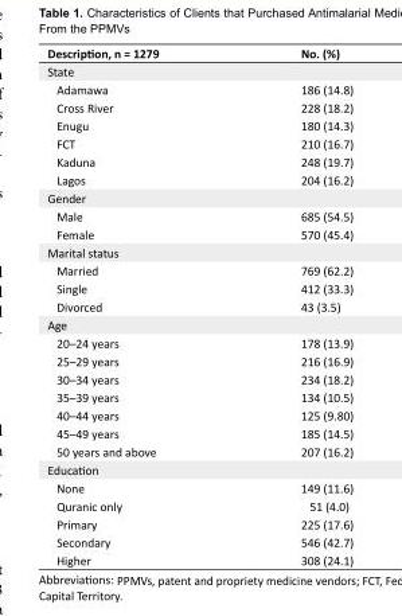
<table><tbody><tr><td>Description, n = 1279</td><td>No. (%)</td></tr><tr><td colspan="2">State</td></tr><tr><td>Adamawa</td><td>186 (14.8)</td></tr><tr><td>Cross River</td><td>228 (18.2)</td></tr><tr><td>Enugu</td><td>180 (14.3)</td></tr><tr><td>FCT</td><td>210 (16.7)</td></tr><tr><td>Kaduna</td><td>248 (19.7)</td></tr><tr><td>Lagos</td><td>204 (16.2)</td></tr><tr><td colspan="2">Gender</td></tr><tr><td>Male</td><td>685 (54.5)</td></tr><tr><td>Female</td><td>570 (45.4)</td></tr><tr><td colspan="2">Marital status</td></tr><tr><td>Married</td><td>769 (62.2)</td></tr><tr><td>Single</td><td>412 (33.3)</td></tr><tr><td>Divorced</td><td>43 (3.5)</td></tr><tr><td colspan="2">Age</td></tr><tr><td>20–24 years</td><td>178 (13.9)</td></tr><tr><td>25–29 years</td><td>216 (16.9)</td></tr><tr><td>30–34 years</td><td>234 (18.2)</td></tr><tr><td>35–39 years</td><td>134 (10.5)</td></tr><tr><td>40–44 years</td><td>125 (9.80)</td></tr><tr><td>45–49 years</td><td>185 (14.5)</td></tr><tr><td>50 years and above</td><td>207 (16.2)</td></tr><tr><td colspan="2">Education</td></tr><tr><td>None</td><td>149 (11.6)</td></tr><tr><td>Quranic only</td><td>51 (4.0)</td></tr><tr><td>Primary</td><td>225 (17.6)</td></tr><tr><td>Secondary</td><td>546 (42.7)</td></tr><tr><td>Higher</td><td>308 (24.1)</td></tr></tbody></table>